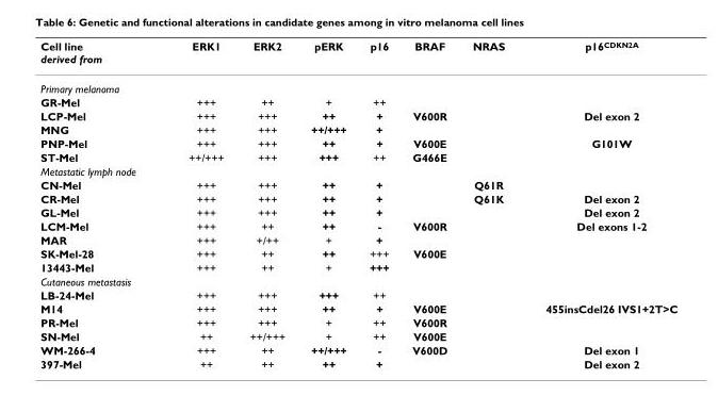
<table><thead><tr><td>Cell line derived from</td><td>ERK1</td><td>ERK2</td><td>pERK</td><td>p16</td><td>BRAF</td><td>NRAS</td><td>p16<sup>CDKN2A</sup></td></tr></thead><tbody><tr><td colspan="8">Primary melanoma</td></tr><tr><td>GR-Mel</td><td>+++</td><td>++</td><td>+</td><td>++</td><td></td><td></td><td></td></tr><tr><td>LCP-Mel</td><td>+++</td><td>+++</td><td>++</td><td>+</td><td>V600R</td><td></td><td>Del exon 2</td></tr><tr><td>MNG</td><td>+++</td><td>+++</td><td>++/+++</td><td>+</td><td></td><td></td><td></td></tr><tr><td>PNP-Mel</td><td>+++</td><td>+++</td><td>++</td><td>+</td><td>V600E</td><td></td><td>G101W</td></tr><tr><td>ST-Mel</td><td>++/+++</td><td>+++</td><td>+++</td><td>++</td><td>G466E</td><td></td><td></td></tr><tr><td colspan="8">Metastatic lymph node</td></tr><tr><td>CN-Mel</td><td>+++</td><td>+++</td><td>++</td><td>+</td><td></td><td>Q61R</td><td></td></tr><tr><td>CR-Mel</td><td>+++</td><td>+++</td><td>++</td><td>+</td><td></td><td>Q61K</td><td>Del exon 2</td></tr><tr><td>GL-Mel</td><td>+++</td><td>+++</td><td>++</td><td>+</td><td></td><td></td><td>Del exon 2</td></tr><tr><td>LCM-Mel</td><td>+++</td><td>++</td><td>++</td><td>-</td><td>V600R</td><td></td><td>Del exons 1-2</td></tr><tr><td>MAR</td><td>+++</td><td>+/++</td><td>+</td><td>+</td><td></td><td></td><td></td></tr><tr><td>SK-Mel-28</td><td>+++</td><td>++</td><td>++</td><td>+++</td><td>V600E</td><td></td><td></td></tr><tr><td>13443-Mel</td><td>+++</td><td>++</td><td>+</td><td>+++</td><td></td><td></td><td></td></tr><tr><td colspan="8">Cutaneous metastasis</td></tr><tr><td>LB-24-Mel</td><td>+++</td><td>+++</td><td>+++</td><td>++</td><td></td><td></td><td></td></tr><tr><td>M14</td><td>+++</td><td>+++</td><td>++</td><td>+</td><td>V600E</td><td></td><td>455insCdel26 IVS1+2T&gt;C</td></tr><tr><td>PR-Mel</td><td>+++</td><td>+++</td><td>+</td><td>++</td><td>V600R</td><td></td><td></td></tr><tr><td>SN-Mel</td><td>++</td><td>++/+++</td><td>+</td><td>++</td><td>V600E</td><td></td><td></td></tr><tr><td>WM-266-4</td><td>+++</td><td>++</td><td>++/+++</td><td>-</td><td>V600D</td><td></td><td>Del exon 1</td></tr><tr><td>397-Mel</td><td>++</td><td>++</td><td>++</td><td>+</td><td></td><td></td><td>Del exon 2</td></tr></tbody></table>